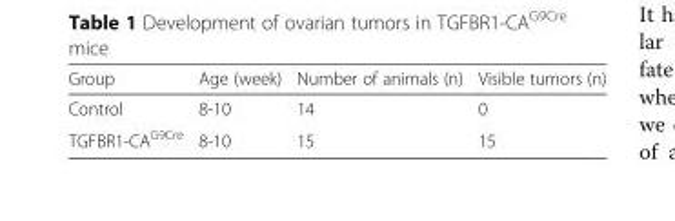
<table><thead><tr><td>Group</td><td>Age (week)</td><td>Number of animals (n)</td><td>Visible tumors (n)</td></tr></thead><tbody><tr><td>Control</td><td>8-10</td><td>14</td><td>0</td></tr><tr><td>TGFBR1-CA<sup>G9Cre</sup></td><td>8-10</td><td>15</td><td>15</td></tr></tbody></table>